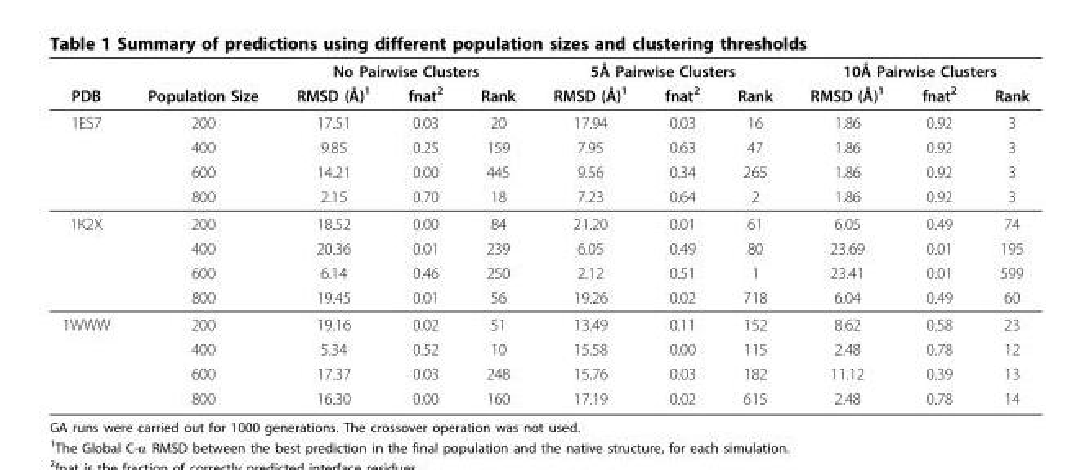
<table><thead><tr><td rowspan="2">PDB</td><td rowspan="2">Population Size</td><td colspan="3">No Pairwise Clusters</td><td colspan="3">5Å Pairwise Clusters</td><td colspan="3">10Å Pairwise Clusters</td></tr><tr><td>RMSD (Å)<sup>1</sup></td><td>fnat<sup>2</sup></td><td>Rank</td><td>RMSD (Å)<sup>1</sup></td><td>fnat<sup>2</sup></td><td>Rank</td><td>RMSD (Å)<sup>1</sup></td><td>fnat<sup>2</sup></td><td>Rank</td></tr></thead><tbody><tr><td rowspan="4">1ES7</td><td>200</td><td>17.51</td><td>0.03</td><td>20</td><td>17.94</td><td>0.03</td><td>16</td><td>1.86</td><td>0.92</td><td>3</td></tr><tr><td>400</td><td>9.85</td><td>0.25</td><td>159</td><td>7.95</td><td>0.63</td><td>47</td><td>1.86</td><td>0.92</td><td>3</td></tr><tr><td>600</td><td>14.21</td><td>0.00</td><td>445</td><td>9.56</td><td>0.34</td><td>265</td><td>1.86</td><td>0.92</td><td>3</td></tr><tr><td>800</td><td>2.15</td><td>0.70</td><td>18</td><td>7.23</td><td>0.64</td><td>2</td><td>1.86</td><td>0.92</td><td>3</td></tr><tr><td rowspan="4">1K2X</td><td>200</td><td>18.52</td><td>0.00</td><td>84</td><td>21.20</td><td>0.01</td><td>61</td><td>6.05</td><td>0.49</td><td>74</td></tr><tr><td>400</td><td>20.36</td><td>0.01</td><td>239</td><td>6.05</td><td>0.49</td><td>80</td><td>23.69</td><td>0.01</td><td>195</td></tr><tr><td>600</td><td>6.14</td><td>0.46</td><td>250</td><td>2.12</td><td>0.51</td><td>1</td><td>23.41</td><td>0.01</td><td>599</td></tr><tr><td>800</td><td>19.45</td><td>0.01</td><td>56</td><td>19.26</td><td>0.02</td><td>718</td><td>6.04</td><td>0.49</td><td>60</td></tr><tr><td rowspan="4">1WWW</td><td>200</td><td>19.16</td><td>0.02</td><td>51</td><td>13.49</td><td>0.11</td><td>152</td><td>8.62</td><td>0.58</td><td>23</td></tr><tr><td>400</td><td>5.34</td><td>0.52</td><td>10</td><td>15.58</td><td>0.00</td><td>115</td><td>2.48</td><td>0.78</td><td>12</td></tr><tr><td>600</td><td>17.37</td><td>0.03</td><td>248</td><td>15.76</td><td>0.03</td><td>182</td><td>11.12</td><td>0.39</td><td>13</td></tr><tr><td>800</td><td>16.30</td><td>0.00</td><td>160</td><td>17.19</td><td>0.02</td><td>615</td><td>2.48</td><td>0.78</td><td>14</td></tr></tbody></table>